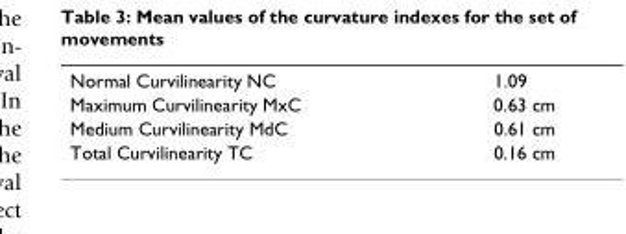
<table><tbody><tr><td>Normal Curvilinearity NC</td><td>1.09</td></tr><tr><td>Maximum Curvilinearity MxC</td><td>0.63 cm</td></tr><tr><td>Medium Curvilinearity MdC</td><td>0.61 cm</td></tr><tr><td>Total Curvilinearity TC</td><td>0.16 cm</td></tr></tbody></table>